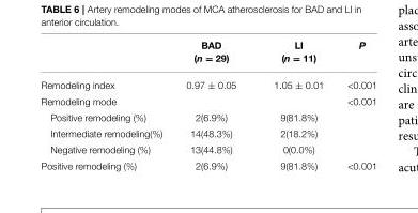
<table><thead><tr><td></td><td>BAD (n = 29)</td><td>LI (n = 11)</td><td>P</td></tr></thead><tbody><tr><td>Remodeling index</td><td>0.97 ± 0.05</td><td>1.05 ± 0.01</td><td>&lt;0.001</td></tr><tr><td>Remodeling mode</td><td></td><td></td><td>&lt;0.001</td></tr><tr><td>Positive remodeling (%)</td><td>2(6.9%)</td><td>9(81.8%)</td><td></td></tr><tr><td>Intermediate remodeling(%)</td><td>14(48.3%)</td><td>2(18.2%)</td><td></td></tr><tr><td>Negative remodeling (%)</td><td>13(44.8%)</td><td>0(0.0%)</td><td></td></tr><tr><td>Positive remodeling (%)</td><td>2(6.9%)</td><td>9(81.8%)</td><td>&lt;0.001</td></tr></tbody></table>